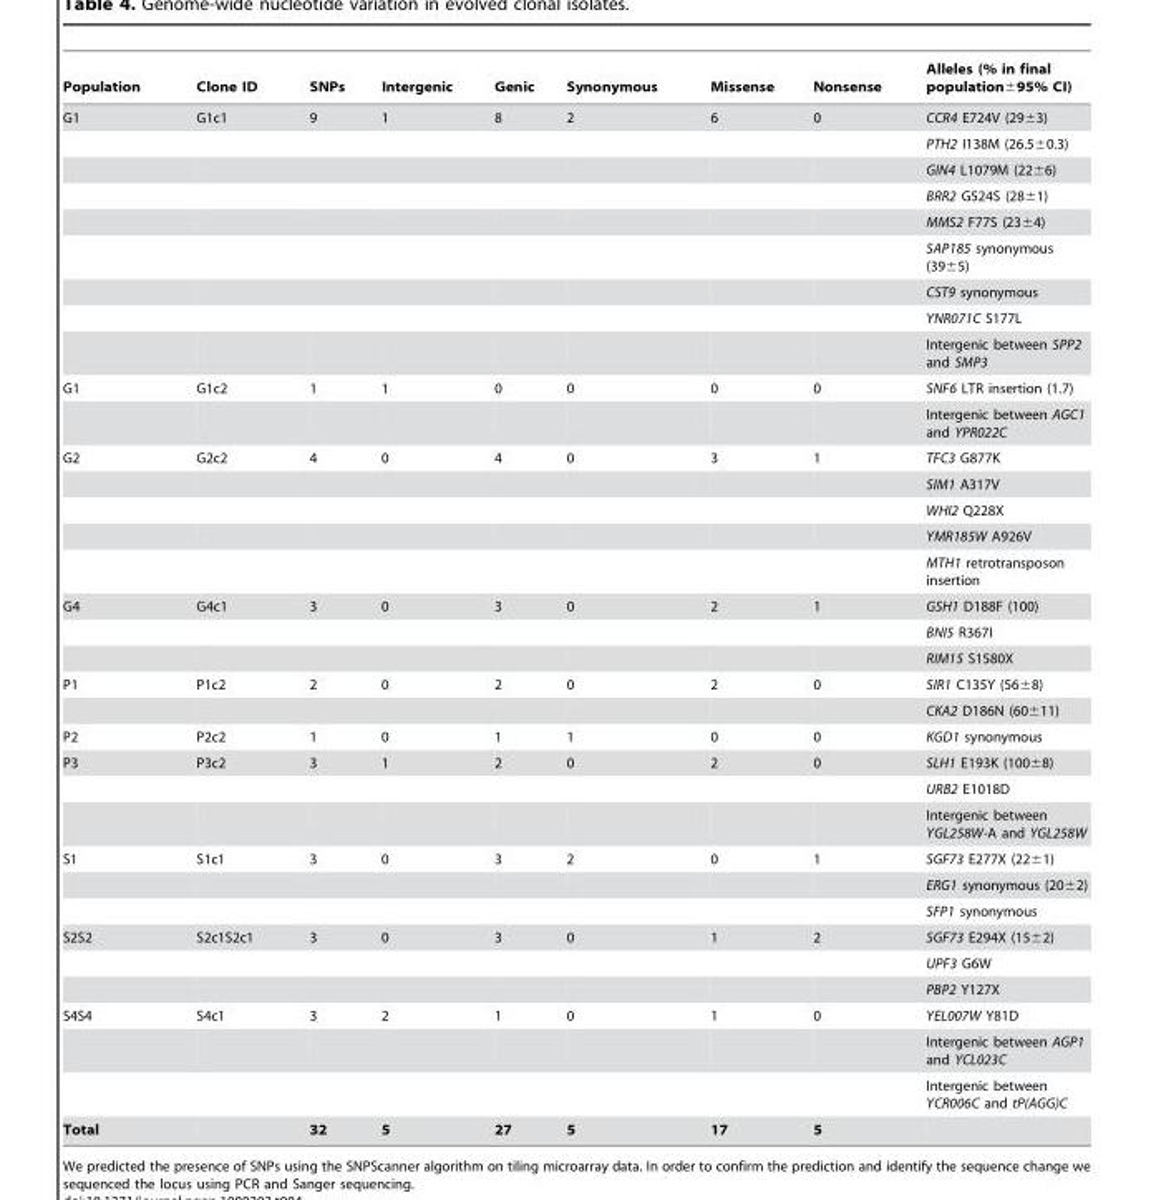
<table><thead><tr><td>Population</td><td>Clone ID</td><td>SNPs</td><td>Intergenic</td><td>Genic</td><td>Synonymous</td><td>Missense</td><td>Nonsense</td><td>Alleles (% in final population±95% CI)</td></tr></thead><tbody><tr><td rowspan="9">G1</td><td>G1c1</td><td>9</td><td>1</td><td>8</td><td>2</td><td>6</td><td>0</td><td>CCR4 E724V (29±3)</td></tr><tr><td></td><td></td><td></td><td></td><td></td><td></td><td></td><td>PTH2 I138M (26.5±0.3)</td></tr><tr><td></td><td></td><td></td><td></td><td></td><td></td><td></td><td>GIN4 L1079M (22±6)</td></tr><tr><td></td><td></td><td></td><td></td><td></td><td></td><td></td><td>BRR2 G524S (28±1)</td></tr><tr><td></td><td></td><td></td><td></td><td></td><td></td><td></td><td>MMS2 F77S (23±4)</td></tr><tr><td></td><td></td><td></td><td></td><td></td><td></td><td></td><td>SAP185 synonymous (39±5)</td></tr><tr><td></td><td></td><td></td><td></td><td></td><td></td><td></td><td>CST9 synonymous</td></tr><tr><td></td><td></td><td></td><td></td><td></td><td></td><td></td><td>YNR071C S177L</td></tr><tr><td></td><td></td><td></td><td></td><td></td><td></td><td></td><td>Intergenic between SPP2 and SMP3</td></tr><tr><td rowspan="2">G1</td><td>G1c2</td><td>1</td><td>1</td><td>0</td><td>0</td><td>0</td><td>0</td><td>SNF6 LTR insertion (1.7)</td></tr><tr><td></td><td></td><td></td><td></td><td></td><td></td><td></td><td>Intergenic between AGC1 and YPR022C</td></tr><tr><td rowspan="5">G2</td><td>G2c2</td><td>4</td><td>0</td><td>4</td><td>0</td><td>3</td><td>1</td><td>TFC3 G877K</td></tr><tr><td></td><td></td><td></td><td></td><td></td><td></td><td></td><td>SIM1 A317V</td></tr><tr><td></td><td></td><td></td><td></td><td></td><td></td><td></td><td>WHI2 Q228X</td></tr><tr><td></td><td></td><td></td><td></td><td></td><td></td><td></td><td>YMR185W A926V</td></tr><tr><td></td><td></td><td></td><td></td><td></td><td></td><td></td><td>MTH1 retrotransposon insertion</td></tr><tr><td rowspan="3">G4</td><td>G4c1</td><td>3</td><td>0</td><td>3</td><td>0</td><td>2</td><td>1</td><td>GSH1 D188F (100)</td></tr><tr><td></td><td></td><td></td><td></td><td></td><td></td><td></td><td>BNI5 R367I</td></tr><tr><td></td><td></td><td></td><td></td><td></td><td></td><td></td><td>RIM15 S1580X</td></tr><tr><td rowspan="2">P1</td><td>P1c2</td><td>2</td><td>0</td><td>2</td><td>0</td><td>2</td><td>0</td><td>SIR1 C135Y (56±8)</td></tr><tr><td></td><td></td><td></td><td></td><td></td><td></td><td></td><td>CKA2 D186N (60±11)</td></tr><tr><td>P2</td><td>P2c2</td><td>1</td><td>0</td><td>1</td><td>1</td><td>0</td><td>0</td><td>KGD1 synonymous</td></tr><tr><td rowspan="3">P3</td><td>P3c2</td><td>3</td><td>1</td><td>2</td><td>0</td><td>2</td><td>0</td><td>SLH1 E193K (100±8)</td></tr><tr><td></td><td></td><td></td><td></td><td></td><td></td><td></td><td>URB2 E1018D</td></tr><tr><td></td><td></td><td></td><td></td><td></td><td></td><td></td><td>Intergenic between YGL258W-A and YGL258W</td></tr><tr><td rowspan="3">S1</td><td>S1c1</td><td>3</td><td>0</td><td>3</td><td>2</td><td>0</td><td>1</td><td>SGF73 E277X (22±1)</td></tr><tr><td></td><td></td><td></td><td></td><td></td><td></td><td></td><td>ERG1 synonymous (20±2)</td></tr><tr><td></td><td></td><td></td><td></td><td></td><td></td><td></td><td>SFP1 synonymous</td></tr><tr><td rowspan="3">S2S2</td><td>S2c1S2c1</td><td>3</td><td>0</td><td>3</td><td>0</td><td>1</td><td>2</td><td>SGF73 E294X (15±2)</td></tr><tr><td></td><td></td><td></td><td></td><td></td><td></td><td></td><td>UPF3 G6W</td></tr><tr><td></td><td></td><td></td><td></td><td></td><td></td><td></td><td>PBP2 Y127X</td></tr><tr><td rowspan="3">S4S4</td><td>S4c1</td><td>3</td><td>2</td><td>1</td><td>0</td><td>1</td><td>0</td><td>YEL007W Y81D</td></tr><tr><td></td><td></td><td></td><td></td><td></td><td></td><td></td><td>Intergenic between AGP1 and YCL023C</td></tr><tr><td></td><td></td><td></td><td></td><td></td><td></td><td></td><td>Intergenic between YCR006C and tP(AGG)C</td></tr><tr><td>Total</td><td></td><td>32</td><td>5</td><td>27</td><td>5</td><td>17</td><td>5</td><td></td></tr></tbody></table>